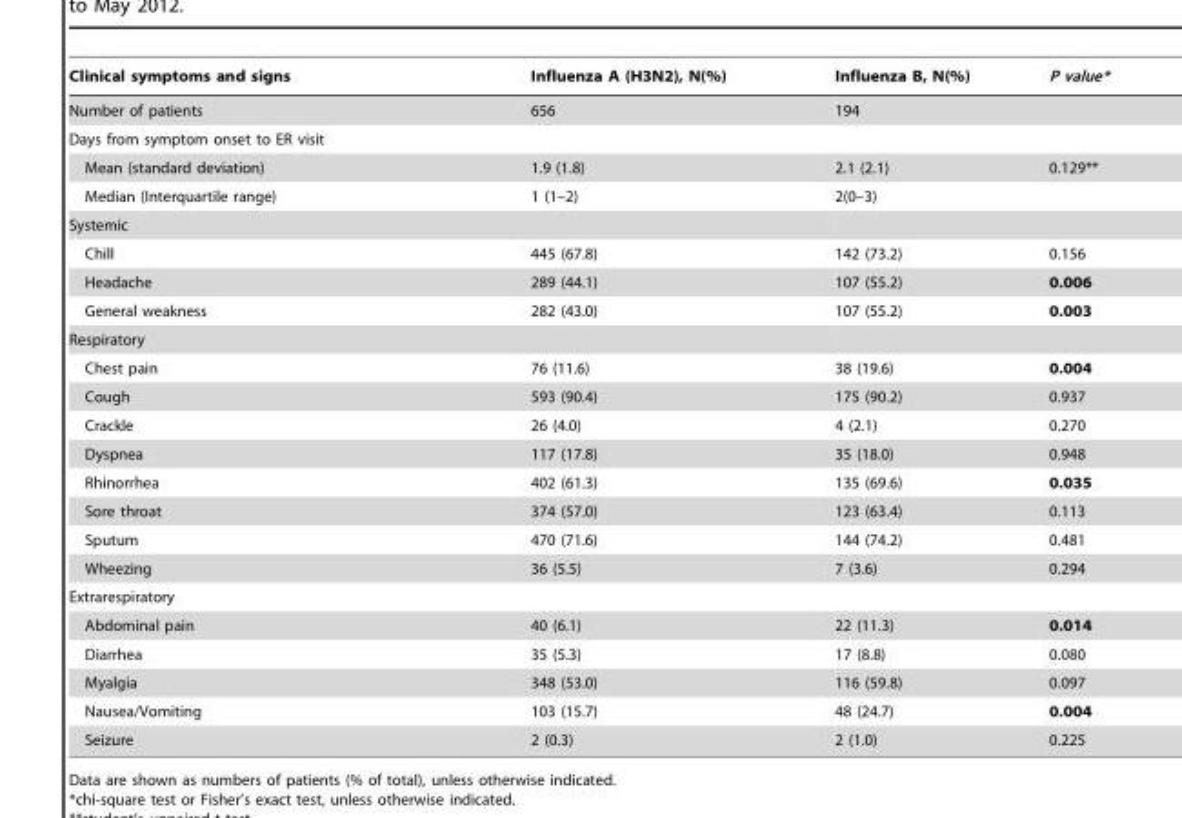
<table><thead><tr><td>Clinical symptoms and signs</td><td>Influenza A (H3N2), N(%)</td><td>Influenza B, N(%)</td><td>P value*</td></tr></thead><tbody><tr><td>Number of patients</td><td>656</td><td>194</td><td></td></tr><tr><td colspan="4">Days from symptom onset to ER visit</td></tr><tr><td>Mean (standard deviation)</td><td>1.9 (1.8)</td><td>2.1 (2.1)</td><td>0.129**</td></tr><tr><td>Median (Interquartile range)</td><td>1 (1–2)</td><td>2(0–3)</td><td></td></tr><tr><td colspan="4">Systemic</td></tr><tr><td>Chill</td><td>445 (67.8)</td><td>142 (73.2)</td><td>0.156</td></tr><tr><td>Headache</td><td>289 (44.1)</td><td>107 (55.2)</td><td>0.006</td></tr><tr><td>General weakness</td><td>282 (43.0)</td><td>107 (55.2)</td><td>0.003</td></tr><tr><td colspan="4">Respiratory</td></tr><tr><td>Chest pain</td><td>76 (11.6)</td><td>38 (19.6)</td><td>0.004</td></tr><tr><td>Cough</td><td>593 (90.4)</td><td>175 (90.2)</td><td>0.937</td></tr><tr><td>Crackle</td><td>26 (4.0)</td><td>4 (2.1)</td><td>0.270</td></tr><tr><td>Dyspnea</td><td>117 (17.8)</td><td>35 (18.0)</td><td>0.948</td></tr><tr><td>Rhinorrhea</td><td>402 (61.3)</td><td>135 (69.6)</td><td>0.035</td></tr><tr><td>Sore throat</td><td>374 (57.0)</td><td>123 (63.4)</td><td>0.113</td></tr><tr><td>Sputum</td><td>470 (71.6)</td><td>144 (74.2)</td><td>0.481</td></tr><tr><td>Wheezing</td><td>36 (5.5)</td><td>7 (3.6)</td><td>0.294</td></tr><tr><td colspan="4">Extrarespiratory</td></tr><tr><td>Abdominal pain</td><td>40 (6.1)</td><td>22 (11.3)</td><td>0.014</td></tr><tr><td>Diarrhea</td><td>35 (5.3)</td><td>17 (8.8)</td><td>0.080</td></tr><tr><td>Myalgia</td><td>348 (53.0)</td><td>116 (59.8)</td><td>0.097</td></tr><tr><td>Nausea/Vomiting</td><td>103 (15.7)</td><td>48 (24.7)</td><td>0.004</td></tr><tr><td>Seizure</td><td>2 (0.3)</td><td>2 (1.0)</td><td>0.225</td></tr></tbody></table>